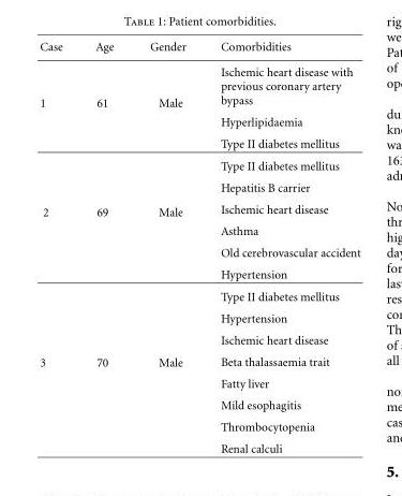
<table><thead><tr><td>Case</td><td>Age</td><td>Gender</td><td>Comorbidities</td></tr></thead><tbody><tr><td rowspan="3">1</td><td rowspan="3">61</td><td rowspan="3">Male</td><td>Ischemic heart disease with previous coronary artery bypass</td></tr><tr><td>Hyperlipidaemia</td></tr><tr><td>Type II diabetes mellitus</td></tr><tr><td rowspan="6">2</td><td rowspan="6">69</td><td rowspan="6">Male</td><td>Type II diabetes mellitus</td></tr><tr><td>Hepatitis B carrier</td></tr><tr><td>Ischemic heart disease</td></tr><tr><td>Asthma</td></tr><tr><td>Old cerebrovascular accident</td></tr><tr><td>Hypertension</td></tr><tr><td rowspan="8">3</td><td rowspan="8">70</td><td rowspan="8">Male</td><td>Type II diabetes mellitus</td></tr><tr><td>Hypertension</td></tr><tr><td>Ischemic heart disease</td></tr><tr><td>Beta thalassaemia trait</td></tr><tr><td>Fatty liver</td></tr><tr><td>Mild esophagitis</td></tr><tr><td>Thrombocytopenia</td></tr><tr><td>Renal calculi</td></tr></tbody></table>